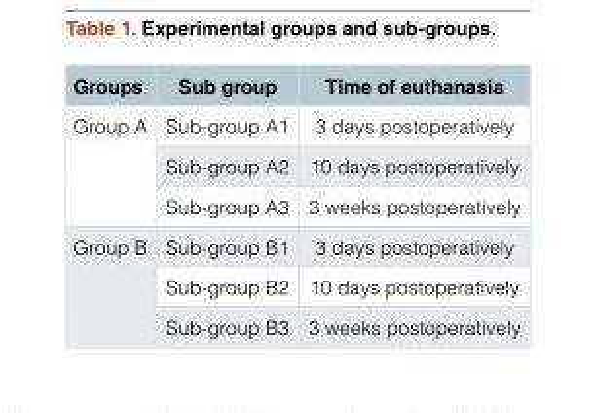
<table><thead><tr><td>Groups</td><td>Sub group</td><td>Time of euthanasia</td></tr></thead><tbody><tr><td rowspan="3">Group A</td><td>Sub-group A1</td><td>3 days postoperatively</td></tr><tr><td>Sub-group A2</td><td>10 days postoperatively</td></tr><tr><td>Sub-group A3</td><td>3 weeks postoperatively</td></tr><tr><td rowspan="3">Group B</td><td>Sub-group B1</td><td>3 days postoperatively</td></tr><tr><td>Sub-group B2</td><td>10 days postoperatively</td></tr><tr><td>Sub-group B3</td><td>3 weeks postoperatively</td></tr></tbody></table>